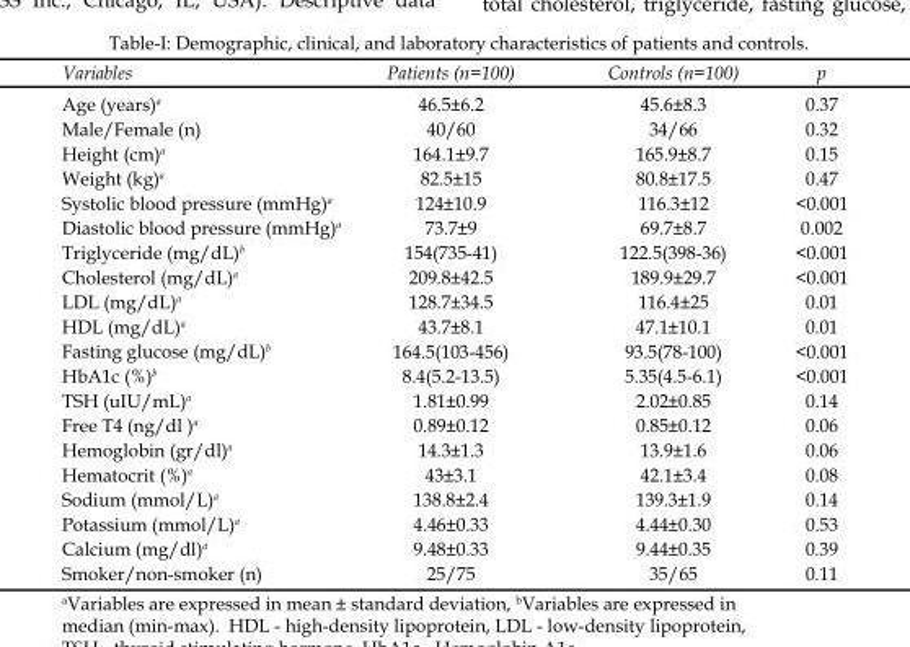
<table><thead><tr><td>Variables</td><td>Patients (n=100)</td><td>Controls (n=100)</td><td>p</td></tr></thead><tbody><tr><td>Age (years)<sup>a</sup></td><td>46.5±6.2</td><td>45.6±8.3</td><td>0.37</td></tr><tr><td>Male/Female (n)</td><td>40/60</td><td>34/66</td><td>0.32</td></tr><tr><td>Height (cm)<sup>a</sup></td><td>164.1±9.7</td><td>165.9±8.7</td><td>0.15</td></tr><tr><td>Weight (kg)<sup>a</sup></td><td>82.5±15</td><td>80.8±17.5</td><td>0.47</td></tr><tr><td>Systolic blood pressure (mmHg)<sup>a</sup></td><td>124±10.9</td><td>116.3±12</td><td>&lt;0.001</td></tr><tr><td>Diastolic blood pressure (mmHg)<sup>a</sup></td><td>73.7±9</td><td>69.7±8.7</td><td>0.002</td></tr><tr><td>Triglyceride (mg/dL)<sup>b</sup></td><td>154(735-41)</td><td>122.5(398-36)</td><td>&lt;0.001</td></tr><tr><td>Cholesterol (mg/dL)<sup>a</sup></td><td>209.8±42.5</td><td>189.9±29.7</td><td>&lt;0.001</td></tr><tr><td>LDL (mg/dL)<sup>a</sup></td><td>128.7±34.5</td><td>116.4±25</td><td>0.01</td></tr><tr><td>HDL (mg/dL)<sup>a</sup></td><td>43.7±8.1</td><td>47.1±10.1</td><td>0.01</td></tr><tr><td>Fasting glucose (mg/dL)<sup>b</sup></td><td>164.5(103-456)</td><td>93.5(78-100)</td><td>&lt;0.001</td></tr><tr><td>HbA1c (%)<sup>b</sup></td><td>8.4(5.2-13.5)</td><td>5.35(4.5-6.1)</td><td>&lt;0.001</td></tr><tr><td>TSH (uIU/mL)<sup>a</sup></td><td>1.81±0.99</td><td>2.02±0.85</td><td>0.14</td></tr><tr><td>Free T4 (ng/dl )<sup>a</sup></td><td>0.89±0.12</td><td>0.85±0.12</td><td>0.06</td></tr><tr><td>Hemoglobin (gr/dl)<sup>a</sup></td><td>14.3±1.3</td><td>13.9±1.6</td><td>0.06</td></tr><tr><td>Hematocrit (%)<sup>a</sup></td><td>43±3.1</td><td>42.1±3.4</td><td>0.08</td></tr><tr><td>Sodium (mmol/L)<sup>a</sup></td><td>138.8±2.4</td><td>139.3±1.9</td><td>0.14</td></tr><tr><td>Potassium (mmol/L)<sup>a</sup></td><td>4.46±0.33</td><td>4.44±0.30</td><td>0.53</td></tr><tr><td>Calcium (mg/dl)<sup>a</sup></td><td>9.48±0.33</td><td>9.44±0.35</td><td>0.39</td></tr><tr><td>Smoker/non-smoker (n)</td><td>25/75</td><td>35/65</td><td>0.11</td></tr></tbody></table>